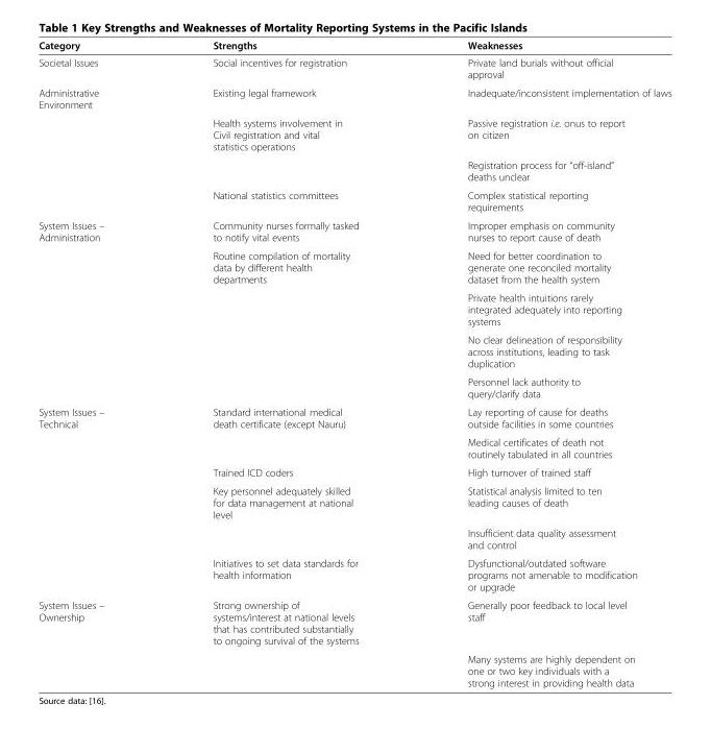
<table><thead><tr><td>Category</td><td>Strengths</td><td>Weaknesses</td></tr></thead><tbody><tr><td>Societal Issues</td><td>Social incentives for registration</td><td>Private land burials without official approval</td></tr><tr><td rowspan="4">Administrative Environment</td><td>Existing legal framework</td><td>Inadequate/inconsistent implementation of laws</td></tr><tr><td>Health systems involvement in Civil registration and vital statistics operations</td><td>Passive registration i.e. onus to report on citizen</td></tr><tr><td></td><td>Registration process for “off-island” deaths unclear</td></tr><tr><td>National statistics committees</td><td>Complex statistical reporting requirements</td></tr><tr><td rowspan="5">System Issues – Administration</td><td>Community nurses formally tasked to notify vital events</td><td>Improper emphasis on community nurses to report cause of death</td></tr><tr><td>Routine compilation of mortality data by different health departments</td><td>Need for better coordination to generate one reconciled mortality dataset from the health system</td></tr><tr><td></td><td>Private health intuitions rarely integrated adequately into reporting systems</td></tr><tr><td></td><td>No clear delineation of responsibility across institutions, leading to task duplication</td></tr><tr><td></td><td>Personnel lack authority to query/clarify data</td></tr><tr><td rowspan="6">System Issues – Technical</td><td>Standard international medical death certificate (except Nauru)</td><td>Lay reporting of cause for deaths outside facilities in some countries</td></tr><tr><td></td><td>Medical certificates of death not routinely tabulated in all countries</td></tr><tr><td>Trained ICD coders</td><td>High turnover of trained staff</td></tr><tr><td>Key personnel adequately skilled for data management at national level</td><td>Statistical analysis limited to ten leading causes of death</td></tr><tr><td></td><td>Insufficient data quality assessment and control</td></tr><tr><td>Initiatives to set data standards for health information</td><td>Dysfunctional/outdated software programs not amenable to modification or upgrade</td></tr><tr><td rowspan="2">System Issues – Ownership</td><td>Strong ownership of systems/interest at national levels that has contributed substantially to ongoing survival of the systems</td><td>Generally poor feedback to local level staff</td></tr><tr><td></td><td>Many systems are highly dependent on one or two key individuals with a strong interest in providing health data</td></tr></tbody></table>